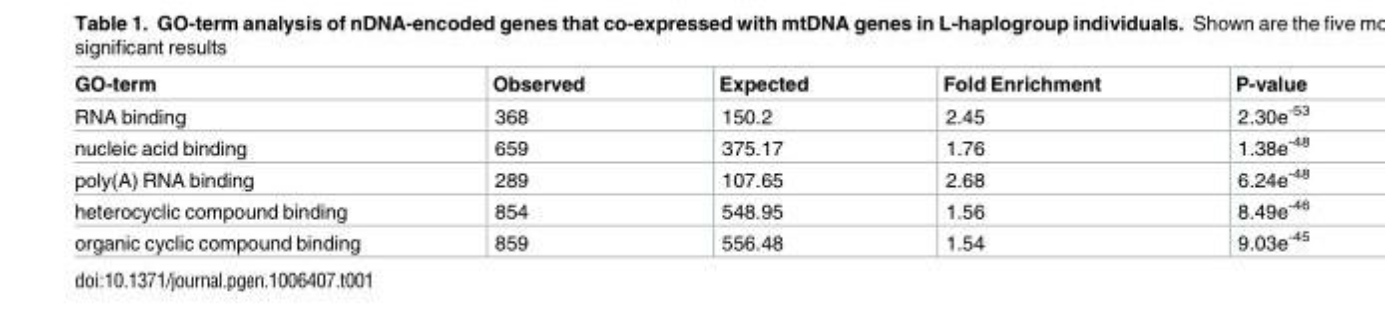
<table><thead><tr><td>GO-term</td><td>Observed</td><td>Expected</td><td>Fold Enrichment</td><td>P-value</td></tr></thead><tbody><tr><td>RNA binding</td><td>368</td><td>150.2</td><td>2.45</td><td>2.30e<sup>-53</sup></td></tr><tr><td>nucleic acid binding</td><td>659</td><td>375.17</td><td>1.76</td><td>1.38e<sup>-48</sup></td></tr><tr><td>poly(A) RNA binding</td><td>289</td><td>107.65</td><td>2.68</td><td>6.24e<sup>-48</sup></td></tr><tr><td>heterocyclic compound binding</td><td>854</td><td>548.95</td><td>1.56</td><td>8.49e<sup>-46</sup></td></tr><tr><td>organic cyclic compound binding</td><td>859</td><td>556.48</td><td>1.54</td><td>9.03e<sup>-45</sup></td></tr></tbody></table>